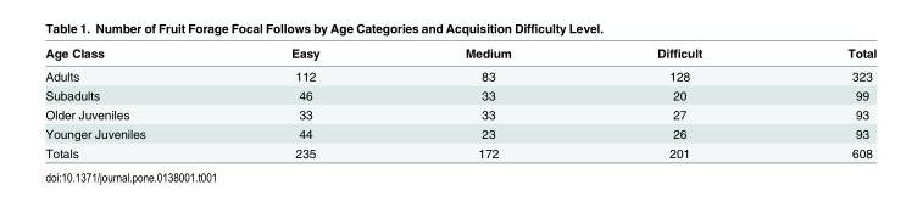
<table><thead><tr><td>Age Class</td><td>Easy</td><td>Medium</td><td>Difficult</td><td>Total</td></tr></thead><tbody><tr><td>Adults</td><td>112</td><td>83</td><td>128</td><td>323</td></tr><tr><td>Subadults</td><td>46</td><td>33</td><td>20</td><td>99</td></tr><tr><td>Older Juveniles</td><td>33</td><td>33</td><td>27</td><td>93</td></tr><tr><td>Younger Juveniles</td><td>44</td><td>23</td><td>26</td><td>93</td></tr><tr><td>Totals</td><td>235</td><td>172</td><td>201</td><td>608</td></tr></tbody></table>